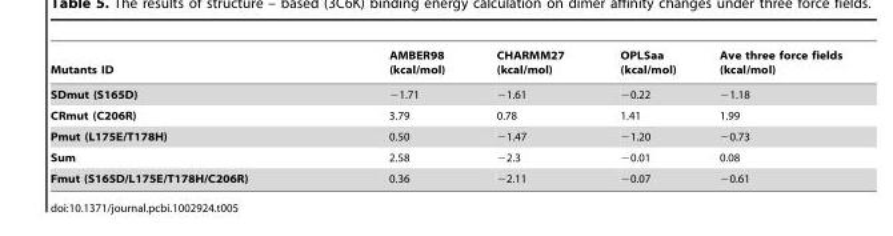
<table><thead><tr><td>Mutants ID</td><td>AMBER98 (kcal/mol)</td><td>CHARMM27 (kcal/mol)</td><td>OPLSaa (kcal/mol)</td><td>Ave three force fields (kcal/mol)</td></tr></thead><tbody><tr><td>SDmut (S165D)</td><td>−1.71</td><td>−1.61</td><td>−0.22</td><td>−1.18</td></tr><tr><td>CRmut (C206R)</td><td>3.79</td><td>0.78</td><td>1.41</td><td>1.99</td></tr><tr><td>Pmut (L175E/T178H)</td><td>0.50</td><td>−1.47</td><td>−1.20</td><td>−0.73</td></tr><tr><td>Sum</td><td>2.58</td><td>−2.3</td><td>−0.01</td><td>0.08</td></tr><tr><td>Fmut (S165D/L175E/T178H/C206R)</td><td>0.36</td><td>−2.11</td><td>−0.07</td><td>−0.61</td></tr></tbody></table>